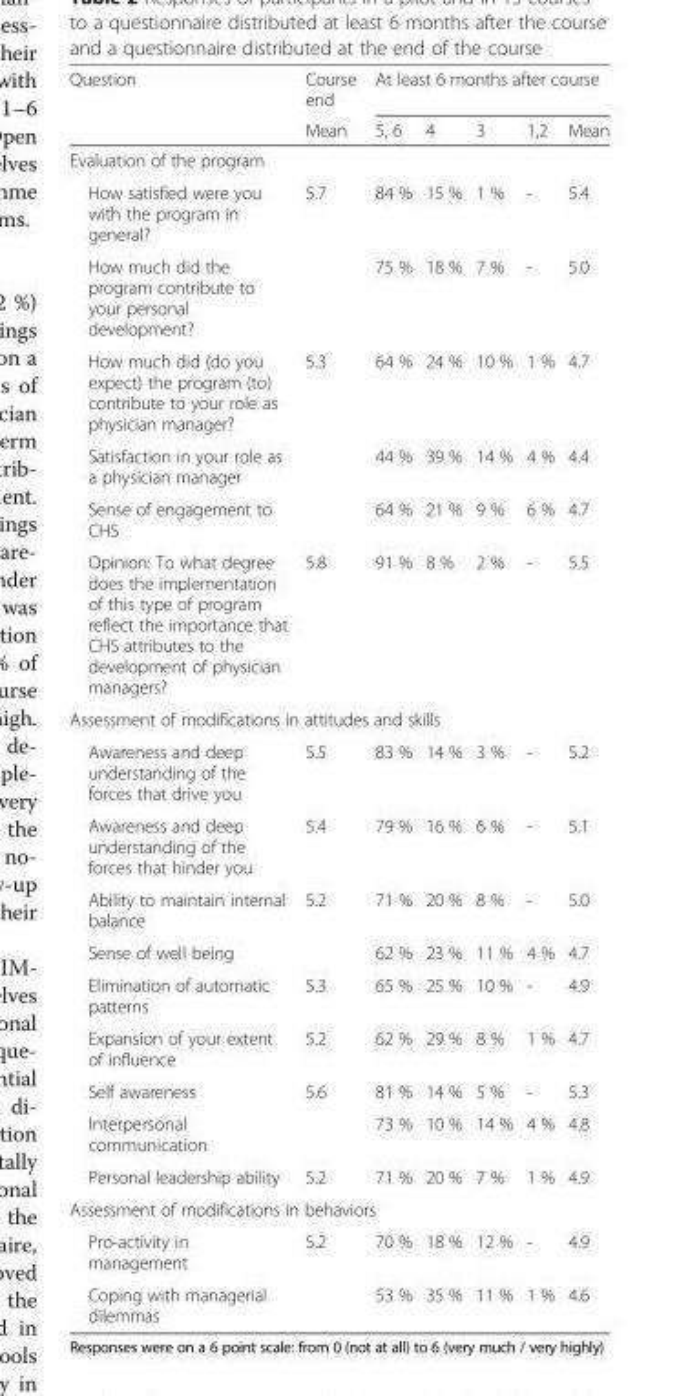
<table><thead><tr><td rowspan="2">Question</td><td rowspan="2">Course end Mean</td><td colspan="5">At least 6 months after course</td></tr><tr><td>5, 6</td><td>4</td><td>3</td><td>1,2</td><td>Mean</td></tr></thead><tbody><tr><td colspan="7">Evaluation of the program</td></tr><tr><td>How satisfied were you with the program in general?</td><td>5.7</td><td>84 %</td><td>15 %</td><td>1 %</td><td>-</td><td>5.4</td></tr><tr><td>How much did the program contribute to your personal development?</td><td></td><td>75 %</td><td>18 %</td><td>7 %</td><td>-</td><td>5.0</td></tr><tr><td>How much did (do you expect) the program (to) contribute to your role as physician manager?</td><td>5.3</td><td>64 %</td><td>24 %</td><td>10 %</td><td>1 %</td><td>4.7</td></tr><tr><td>Satisfaction in your role as a physician manager</td><td></td><td>44 %</td><td>39 %</td><td>14 %</td><td>4 %</td><td>4.4</td></tr><tr><td>Sense of engagement to CHS</td><td></td><td>64 %</td><td>21 %</td><td>9 %</td><td>6 %</td><td>4.7</td></tr><tr><td>Opinion: To what degree does the implementation of this type of program reflect the importance that CHS attributes to the development of physician managers?</td><td>5.8</td><td>91 %</td><td>8 %</td><td>2 %</td><td>-</td><td>5.5</td></tr><tr><td colspan="7">Assessment of modifications in attitudes and skills</td></tr><tr><td>Awareness and deep understanding of the forces that drive you</td><td>5.5</td><td>83 %</td><td>14 %</td><td>3 %</td><td>-</td><td>5.2</td></tr><tr><td>Awareness and deep understanding of the forces that hinder you</td><td>5.4</td><td>79 %</td><td>16 %</td><td>6 %</td><td>-</td><td>5.1</td></tr><tr><td>Ability to maintain internal balance</td><td>5.2</td><td>71 %</td><td>20 %</td><td>8 %</td><td>-</td><td>5.0</td></tr><tr><td>Sense of well being</td><td></td><td>62 %</td><td>23 %</td><td>11 %</td><td>4 %</td><td>4.7</td></tr><tr><td>Elimination of automatic patterns</td><td>5.3</td><td>65 %</td><td>25 %</td><td>10 %</td><td>-</td><td>4.9</td></tr><tr><td>Expansion of your extent of influence</td><td>5.2</td><td>62 %</td><td>29 %</td><td>8 %</td><td>1 %</td><td>4.7</td></tr><tr><td>Self awareness</td><td>5.6</td><td>81 %</td><td>14 %</td><td>5 %</td><td>-</td><td>5.3</td></tr><tr><td>Interpersonal communication</td><td></td><td>73 %</td><td>10 %</td><td>14 %</td><td>4 %</td><td>4.8</td></tr><tr><td>Personal leadership ability</td><td>5.2</td><td>71 %</td><td>20 %</td><td>7 %</td><td>1 %</td><td>4.9</td></tr><tr><td colspan="7">Assessment of modifications in behaviors</td></tr><tr><td>Pro-activity in management</td><td>5.2</td><td>70 %</td><td>18 %</td><td>12 %</td><td>-</td><td>4.9</td></tr><tr><td>Coping with managerial dilemmas</td><td></td><td>53 %</td><td>35 %</td><td>11 %</td><td>1 %</td><td>4.6</td></tr></tbody></table>